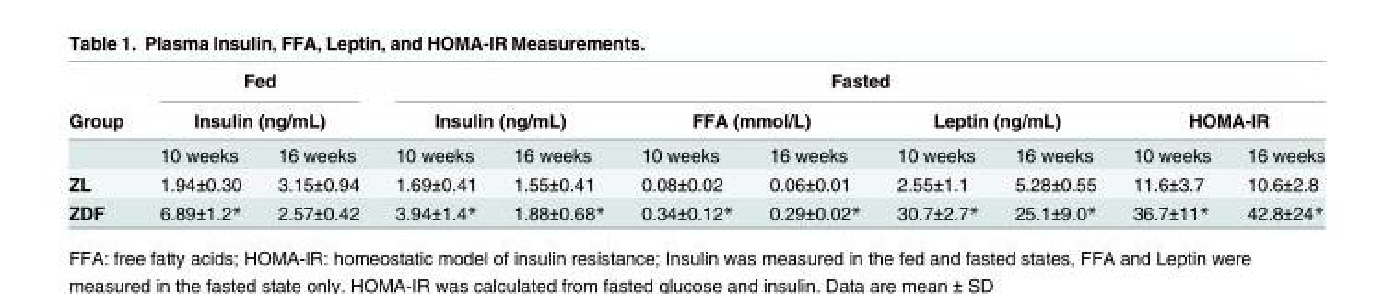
<table><thead><tr><td rowspan="3">Group</td><td rowspan="2" colspan="2">Fed Insulin (ng/mL)</td><td colspan="8">Fasted</td></tr><tr><td colspan="2">Insulin (ng/mL)</td><td colspan="2">FFA (mmol/L)</td><td colspan="2">Leptin (ng/mL)</td><td colspan="2">HOMA-IR</td></tr><tr><td>10 weeks</td><td>16 weeks</td><td>10 weeks</td><td>16 weeks</td><td>10 weeks</td><td>16 weeks</td><td>10 weeks</td><td>16 weeks</td><td>10 weeks</td><td>16 weeks</td></tr></thead><tbody><tr><td>ZL</td><td>1.94±0.30</td><td>3.15±0.94</td><td>1.69±0.41</td><td>1.55±0.41</td><td>0.08±0.02</td><td>0.06±0.01</td><td>2.55±1.1</td><td>5.28±0.55</td><td>11.6±3.7</td><td>10.6±2.8</td></tr><tr><td>ZDF</td><td>6.89±1.2*</td><td>2.57±0.42</td><td>3.94±1.4*</td><td>1.88±0.68*</td><td>0.34±0.12*</td><td>0.29±0.02*</td><td>30.7±2.7*</td><td>25.1±9.0*</td><td>36.7±11*</td><td>42.8±24*</td></tr></tbody></table>